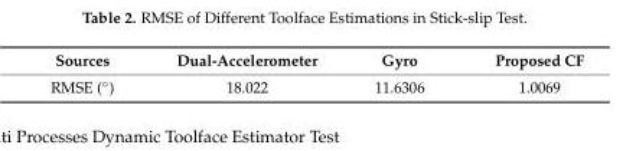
<table><thead><tr><td>Sources</td><td>Dual-Accelerometer</td><td>Gyro</td><td>Proposed CF</td></tr></thead><tbody><tr><td>RMSE (◦)</td><td>18.022</td><td>11.6306</td><td>1.0069</td></tr></tbody></table>